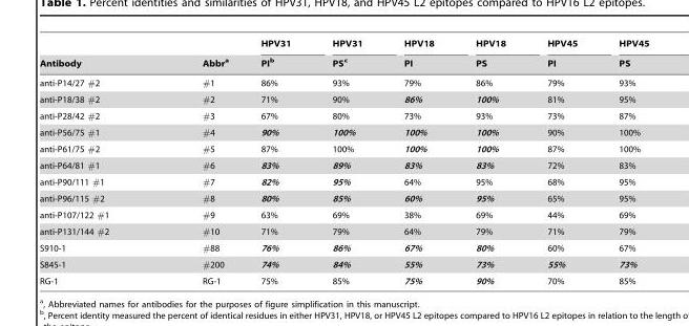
<table><thead><tr><td rowspan="2">Antibody</td><td rowspan="2">Abbr<sup>a</sup></td><td rowspan="2">HPV31 PI<sup>b</sup></td><td rowspan="2">HPV31 PS<sup>c</sup></td><td rowspan="2">HPV18 PI</td><td rowspan="2">HPV18 PS</td><td rowspan="2">HPV45 PI</td><td rowspan="2">HPV45 PS</td></tr><tr></tr></thead><tbody><tr><td>anti-P14/27 #2</td><td>#1</td><td>86%</td><td>93%</td><td>79%</td><td>86%</td><td>79%</td><td>93%</td></tr><tr><td>anti-P18/38 #2</td><td>#2</td><td>71%</td><td>90%</td><td>86%</td><td>100%</td><td>81%</td><td>95%</td></tr><tr><td>anti-P28/42 #2</td><td>#3</td><td>67%</td><td>80%</td><td>73%</td><td>93%</td><td>73%</td><td>87%</td></tr><tr><td>anti-P56/75 #1</td><td>#4</td><td>90%</td><td>100%</td><td>100%</td><td>100%</td><td>90%</td><td>100%</td></tr><tr><td>anti-P61/75 #2</td><td>#5</td><td>87%</td><td>100%</td><td>100%</td><td>100%</td><td>87%</td><td>100%</td></tr><tr><td>anti-P64/81 #1</td><td>#6</td><td>83%</td><td>89%</td><td>83%</td><td>83%</td><td>72%</td><td>83%</td></tr><tr><td>anti-P90/111 #1</td><td>#7</td><td>82%</td><td>95%</td><td>64%</td><td>95%</td><td>68%</td><td>95%</td></tr><tr><td>anti-P96/115 #2</td><td>#8</td><td>80%</td><td>85%</td><td>60%</td><td>95%</td><td>65%</td><td>95%</td></tr><tr><td>anti-P107/122 #1</td><td>#9</td><td>63%</td><td>69%</td><td>38%</td><td>69%</td><td>44%</td><td>69%</td></tr><tr><td>anti-P131/144 #2</td><td>#10</td><td>71%</td><td>79%</td><td>64%</td><td>79%</td><td>71%</td><td>79%</td></tr><tr><td>S910-1</td><td>#88</td><td>76%</td><td>86%</td><td>67%</td><td>80%</td><td>60%</td><td>67%</td></tr><tr><td>S845-1</td><td>#200</td><td>74%</td><td>84%</td><td>55%</td><td>73%</td><td>55%</td><td>73%</td></tr><tr><td>RG-1</td><td>RG-1</td><td>75%</td><td>85%</td><td>75%</td><td>90%</td><td>70%</td><td>85%</td></tr></tbody></table>